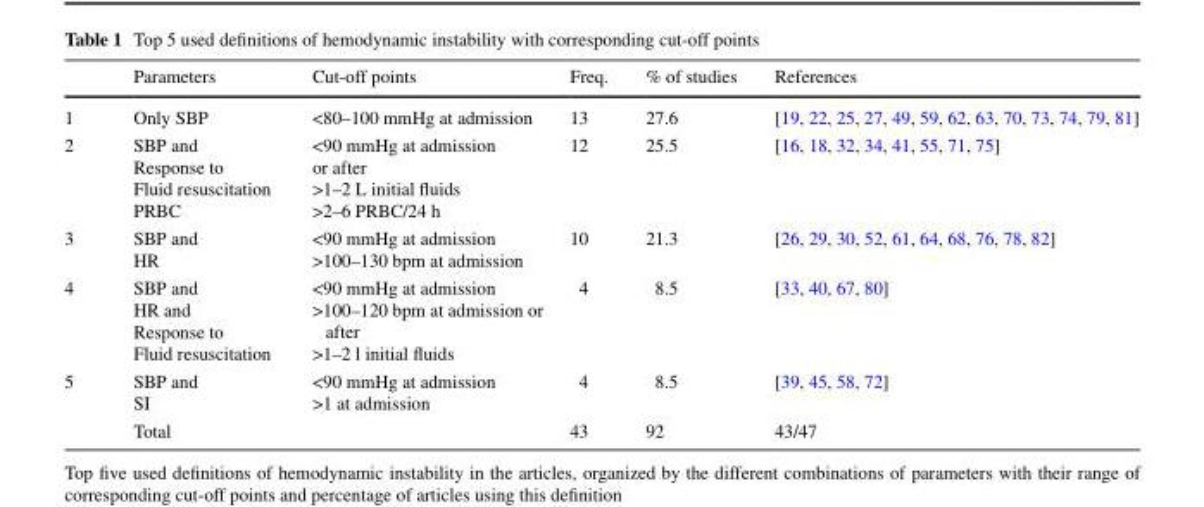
<table><thead><tr><td></td><td>Parameters</td><td>Cut-off points</td><td>Freq.</td><td>% of studies</td><td>References</td></tr></thead><tbody><tr><td>1</td><td>Only SBP</td><td>&lt;80–100 mmHg at admission</td><td>13</td><td>27.6</td><td>[19, 22, 25, 27, 49, 59, 62, 63, 70, 73, 74, 79, 81]</td></tr><tr><td>2</td><td>SBP and Response to Fluid resuscitation PRBC</td><td>&lt;90 mmHg at admission or after &gt;1–2 L initial fluids &gt;2–6 PRBC/24 h</td><td>12</td><td>25.5</td><td>[16, 18, 32, 34, 41, 55, 71, 75]</td></tr><tr><td>3</td><td>SBP and HR</td><td>&lt;90 mmHg at admission &gt;100–130 bpm at admission</td><td>10</td><td>21.3</td><td>[26, 29, 30, 52, 61, 64, 68, 76, 78, 82]</td></tr><tr><td>4</td><td>SBP and HR and Response to Fluid resuscitation</td><td>&lt;90 mmHg at admission &gt;100–120 bpm at admission or after &gt;1–2 l initial fluids</td><td>4</td><td>8.5</td><td>[33, 40, 67, 80]</td></tr><tr><td rowspan="2">5</td><td>SBP and SI</td><td>&lt;90 mmHg at admission &gt;1 at admission</td><td>4</td><td>8.5</td><td>[39, 45, 58, 72]</td></tr><tr><td>Total</td><td></td><td>43</td><td>92</td><td>43/47</td></tr></tbody></table>